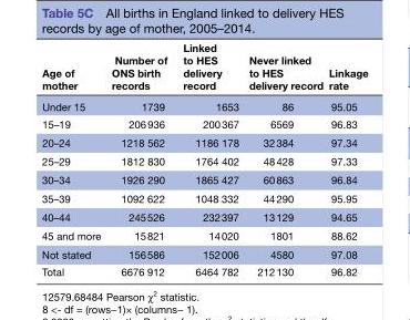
<table><thead><tr><td>Age of mother</td><td>Number of ONS birth records</td><td>Linked to HES delivery record</td><td>Never linked to HES delivery record</td><td>Linkage rate</td></tr></thead><tbody><tr><td>Under 15</td><td>1739</td><td>1653</td><td>86</td><td>95.05</td></tr><tr><td>15–19</td><td>206 936</td><td>200 367</td><td>6569</td><td>96.83</td></tr><tr><td>20–24</td><td>1218 562</td><td>1186 178</td><td>32 384</td><td>97.34</td></tr><tr><td>25–29</td><td>1812 830</td><td>1764 402</td><td>48 428</td><td>97.33</td></tr><tr><td>30–34</td><td>1926 290</td><td>1865 427</td><td>60 863</td><td>96.84</td></tr><tr><td>35–39</td><td>1092 622</td><td>1048 332</td><td>44 290</td><td>95.95</td></tr><tr><td>40–44</td><td>245 526</td><td>232 397</td><td>13 129</td><td>94.65</td></tr><tr><td>45 and more</td><td>15 821</td><td>14 020</td><td>1801</td><td>88.62</td></tr><tr><td>Not stated</td><td>156 586</td><td>152 006</td><td>4580</td><td>97.08</td></tr><tr><td>Total</td><td>6676 912</td><td>6464 782</td><td>212 130</td><td>96.82</td></tr></tbody></table>